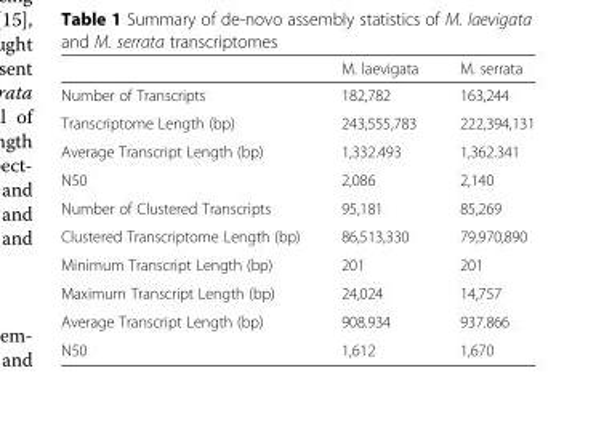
<table><thead><tr><td></td><td>M. laevigata</td><td>M. serrata</td></tr></thead><tbody><tr><td>Number of Transcripts</td><td>182,782</td><td>163,244</td></tr><tr><td>Transcriptome Length (bp)</td><td>243,555,783</td><td>222,394,131</td></tr><tr><td>Average Transcript Length (bp)</td><td>1,332.493</td><td>1,362.341</td></tr><tr><td>N50</td><td>2,086</td><td>2,140</td></tr><tr><td>Number of Clustered Transcripts</td><td>95,181</td><td>85,269</td></tr><tr><td>Clustered Transcriptome Length (bp)</td><td>86,513,330</td><td>79,970,890</td></tr><tr><td>Minimum Transcript Length (bp)</td><td>201</td><td>201</td></tr><tr><td>Maximum Transcript Length (bp)</td><td>24,024</td><td>14,757</td></tr><tr><td>Average Transcript Length (bp)</td><td>908.934</td><td>937.866</td></tr><tr><td>N50</td><td>1,612</td><td>1,670</td></tr></tbody></table>